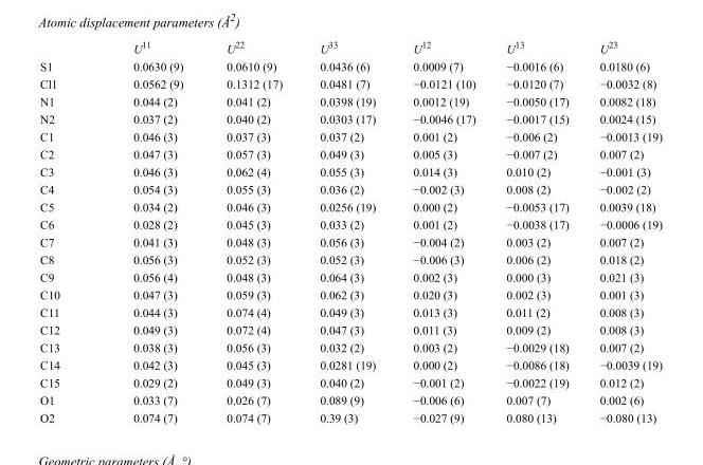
<table><thead><tr><td></td><td>U<sup>11</sup></td><td>U<sup>22</sup></td><td>U<sup>33</sup></td><td>U<sup>12</sup></td><td>U<sup>13</sup></td><td>U<sup>23</sup></td></tr></thead><tbody><tr><td>S1</td><td>0.0630 (9)</td><td>0.0610 (9)</td><td>0.0436 (6)</td><td>0.0009 (7)</td><td>−0.0016 (6)</td><td>0.0180 (6)</td></tr><tr><td>Cl1</td><td>0.0562 (9)</td><td>0.1312 (17)</td><td>0.0481 (7)</td><td>−0.0121 (10)</td><td>−0.0120 (7)</td><td>−0.0032 (8)</td></tr><tr><td>N1</td><td>0.044 (2)</td><td>0.041 (2)</td><td>0.0398 (19)</td><td>0.0012 (19)</td><td>−0.0050 (17)</td><td>0.0082 (18)</td></tr><tr><td>N2</td><td>0.037 (2)</td><td>0.040 (2)</td><td>0.0303 (17)</td><td>−0.0046 (17)</td><td>−0.0017 (15)</td><td>0.0024 (15)</td></tr><tr><td>C1</td><td>0.046 (3)</td><td>0.037 (3)</td><td>0.037 (2)</td><td>0.001 (2)</td><td>−0.006 (2)</td><td>−0.0013 (19)</td></tr><tr><td>C2</td><td>0.047 (3)</td><td>0.057 (3)</td><td>0.049 (3)</td><td>0.005 (3)</td><td>−0.007 (2)</td><td>0.007 (2)</td></tr><tr><td>C3</td><td>0.046 (3)</td><td>0.062 (4)</td><td>0.055 (3)</td><td>0.014 (3)</td><td>0.010 (2)</td><td>−0.001 (3)</td></tr><tr><td>C4</td><td>0.054 (3)</td><td>0.055 (3)</td><td>0.036 (2)</td><td>−0.002 (3)</td><td>0.008 (2)</td><td>−0.002 (2)</td></tr><tr><td>C5</td><td>0.034 (2)</td><td>0.046 (3)</td><td>0.0256 (19)</td><td>0.000 (2)</td><td>−0.0053 (17)</td><td>0.0039 (18)</td></tr><tr><td>C6</td><td>0.028 (2)</td><td>0.045 (3)</td><td>0.033 (2)</td><td>0.001 (2)</td><td>−0.0038 (17)</td><td>−0.0006 (19)</td></tr><tr><td>C7</td><td>0.041 (3)</td><td>0.048 (3)</td><td>0.056 (3)</td><td>−0.004 (2)</td><td>0.003 (2)</td><td>0.007 (2)</td></tr><tr><td>C8</td><td>0.056 (3)</td><td>0.052 (3)</td><td>0.052 (3)</td><td>−0.006 (3)</td><td>0.006 (2)</td><td>0.018 (2)</td></tr><tr><td>C9</td><td>0.056 (4)</td><td>0.048 (3)</td><td>0.064 (3)</td><td>0.002 (3)</td><td>0.000 (3)</td><td>0.021 (3)</td></tr><tr><td>C10</td><td>0.047 (3)</td><td>0.059 (3)</td><td>0.062 (3)</td><td>0.020 (3)</td><td>0.002 (3)</td><td>0.001 (3)</td></tr><tr><td>C11</td><td>0.044 (3)</td><td>0.074 (4)</td><td>0.049 (3)</td><td>0.013 (3)</td><td>0.011 (2)</td><td>0.008 (3)</td></tr><tr><td>C12</td><td>0.049 (3)</td><td>0.072 (4)</td><td>0.047 (3)</td><td>0.011 (3)</td><td>0.009 (2)</td><td>0.008 (3)</td></tr><tr><td>C13</td><td>0.038 (3)</td><td>0.056 (3)</td><td>0.032 (2)</td><td>0.003 (2)</td><td>−0.0029 (18)</td><td>0.007 (2)</td></tr><tr><td>C14</td><td>0.042 (3)</td><td>0.045 (3)</td><td>0.0281 (19)</td><td>0.000 (2)</td><td>−0.0086 (18)</td><td>−0.0039 (19)</td></tr><tr><td>C15</td><td>0.029 (2)</td><td>0.049 (3)</td><td>0.040 (2)</td><td>−0.001 (2)</td><td>−0.0022 (19)</td><td>0.012 (2)</td></tr><tr><td>O1</td><td>0.033 (7)</td><td>0.026 (7)</td><td>0.089 (9)</td><td>−0.006 (6)</td><td>0.007 (7)</td><td>0.002 (6)</td></tr><tr><td>O2</td><td>0.074 (7)</td><td>0.074 (7)</td><td>0.39 (3)</td><td>−0.027 (9)</td><td>0.080 (13)</td><td>−0.080 (13)</td></tr></tbody></table>